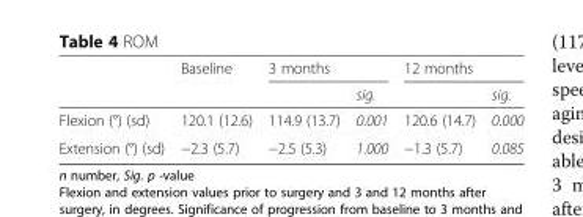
<table><thead><tr><td rowspan="2"></td><td rowspan="2">Baseline</td><td colspan="2">3 months</td><td colspan="2">12 months</td></tr><tr><td></td><td>sig.</td><td></td><td>sig.</td></tr></thead><tbody><tr><td>Flexion (°) (sd)</td><td>120.1 (12.6)</td><td>114.9 (13.7)</td><td>0.001</td><td>120.6 (14.7)</td><td>0.000</td></tr><tr><td>Extension (°) (sd)</td><td>−2.3 (5.7)</td><td>−2.5 (5.3)</td><td>1.000</td><td>−1.3 (5.7)</td><td>0.085</td></tr></tbody></table>